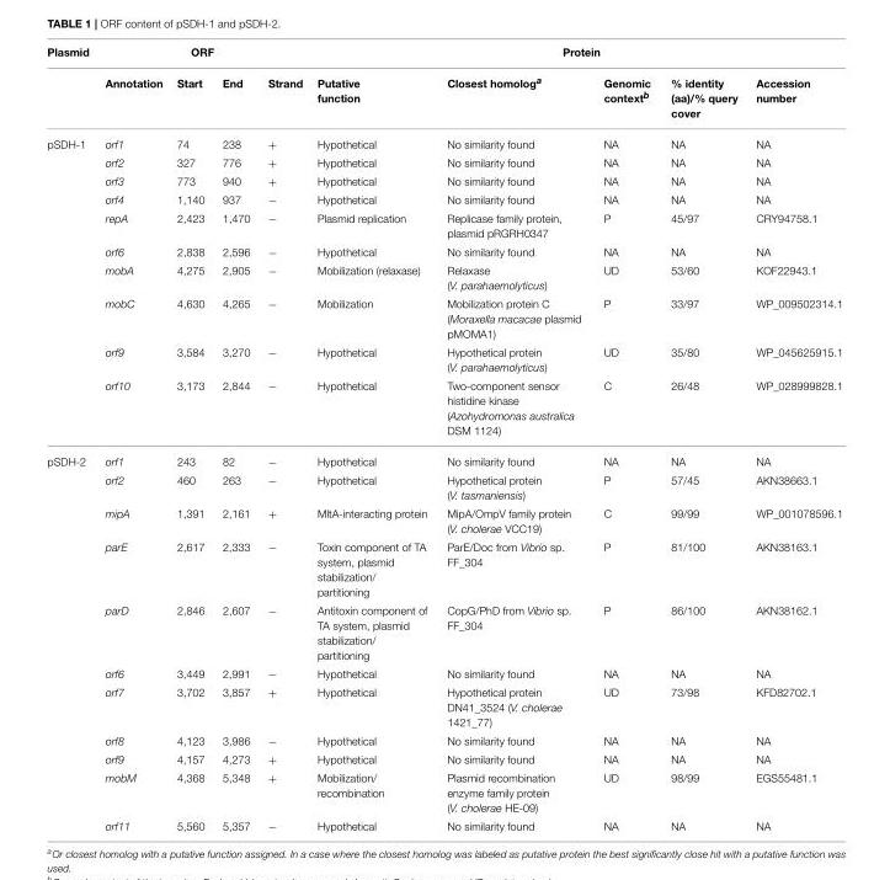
<table><thead><tr><td rowspan="2">Plasmid</td><td colspan="4">ORF</td><td colspan="5">Protein</td></tr><tr><td>Annotation</td><td>Start</td><td>End</td><td>Strand</td><td>Putative function</td><td>Closest homolog<sup>a</sup></td><td>Genomic context<sup>b</sup></td><td>% identity (aa)/% query cover</td><td>Accession number</td></tr></thead><tbody><tr><td rowspan="10">pSDH-1</td><td>orf1</td><td>74</td><td>238</td><td>+</td><td>Hypothetical</td><td>No similarity found</td><td>NA</td><td>NA</td><td>NA</td></tr><tr><td>orf2</td><td>327</td><td>776</td><td>+</td><td>Hypothetical</td><td>No similarity found</td><td>NA</td><td>NA</td><td>NA</td></tr><tr><td>orf3</td><td>773</td><td>940</td><td>+</td><td>Hypothetical</td><td>No similarity found</td><td>NA</td><td>NA</td><td>NA</td></tr><tr><td>orf4</td><td>1,140</td><td>937</td><td>−</td><td>Hypothetical</td><td>No similarity found</td><td>NA</td><td>NA</td><td>NA</td></tr><tr><td>repA</td><td>2,423</td><td>1,470</td><td>−</td><td>Plasmid replication</td><td>Replicase family protein, plasmid pRGRH0347</td><td>P</td><td>45/97</td><td>CRY94758.1</td></tr><tr><td>orf6</td><td>2,838</td><td>2,596</td><td>−</td><td>Hypothetical</td><td>No similarity found</td><td>NA</td><td>NA</td><td>NA</td></tr><tr><td>mobA</td><td>4,275</td><td>2,905</td><td>−</td><td>Mobilization (relaxase)</td><td>Relaxase (V. parahaemolyticus)</td><td>UD</td><td>53/60</td><td>KOF22943.1</td></tr><tr><td>mobC</td><td>4,630</td><td>4,265</td><td>−</td><td>Mobilization</td><td>Mobilization protein C (Moraxella macacae plasmid pMOMA1)</td><td>P</td><td>33/97</td><td>WP_009502314.1</td></tr><tr><td>orf9</td><td>3,584</td><td>3,270</td><td>−</td><td>Hypothetical</td><td>Hypothetical protein (V. parahaemolyticus)</td><td>UD</td><td>35/80</td><td>WP_045625915.1</td></tr><tr><td>orf10</td><td>3,173</td><td>2,844</td><td>−</td><td>Hypothetical</td><td>Two-component sensor histidine kinase (Azohydromonas australica DSM 1124)</td><td>C</td><td>26/48</td><td>WP_028999828.1</td></tr><tr><td rowspan="11">pSDH-2</td><td>orf1</td><td>243</td><td>82</td><td>−</td><td>Hypothetical</td><td>No similarity found</td><td>NA</td><td>NA</td><td>NA</td></tr><tr><td>orf2</td><td>460</td><td>263</td><td>−</td><td>Hypothetical</td><td>Hypothetical protein (V. tasmaniensis)</td><td>P</td><td>57/45</td><td>AKN38663.1</td></tr><tr><td>mipA</td><td>1,391</td><td>2,161</td><td>+</td><td>MltA-interacting protein</td><td>MipA/OmpV family protein (V. cholerae VCC19)</td><td>C</td><td>99/99</td><td>WP_001078596.1</td></tr><tr><td>parE</td><td>2,617</td><td>2,333</td><td>−</td><td>Toxin component of TA system, plasmid stabilization/ partitioning</td><td>ParE/Doc from Vibrio sp. FF_304</td><td>P</td><td>81/100</td><td>AKN38163.1</td></tr><tr><td>parD</td><td>2,846</td><td>2,607</td><td>−</td><td>Antitoxin component of TA system, plasmid stabilization/ partitioning</td><td>CopG/PhD from Vibrio sp. FF_304</td><td>P</td><td>86/100</td><td>AKN38162.1</td></tr><tr><td>orf6</td><td>3,449</td><td>2,991</td><td>−</td><td>Hypothetical</td><td>No similarity found</td><td>NA</td><td>NA</td><td>NA</td></tr><tr><td>orf7</td><td>3,702</td><td>3,857</td><td>+</td><td>Hypothetical</td><td>Hypothetical protein DN41_3524 (V. cholerae 1421_77)</td><td>UD</td><td>73/98</td><td>KFD82702.1</td></tr><tr><td>orf8</td><td>4,123</td><td>3,986</td><td>−</td><td>Hypothetical</td><td>No similarity found</td><td>NA</td><td>NA</td><td>NA</td></tr><tr><td>orf9</td><td>4,157</td><td>4,273</td><td>+</td><td>Hypothetical</td><td>No similarity found</td><td>NA</td><td>NA</td><td>NA</td></tr><tr><td>mobM</td><td>4,368</td><td>5,348</td><td>+</td><td>Mobilization/ recombination</td><td>Plasmid recombination enzyme family protein (V. cholerae HE-09)</td><td>UD</td><td>98/99</td><td>EGS55481.1</td></tr><tr><td>orf11</td><td>5,560</td><td>5,357</td><td>−</td><td>Hypothetical</td><td>No similarity found</td><td>NA</td><td>NA</td><td>NA</td></tr></tbody></table>